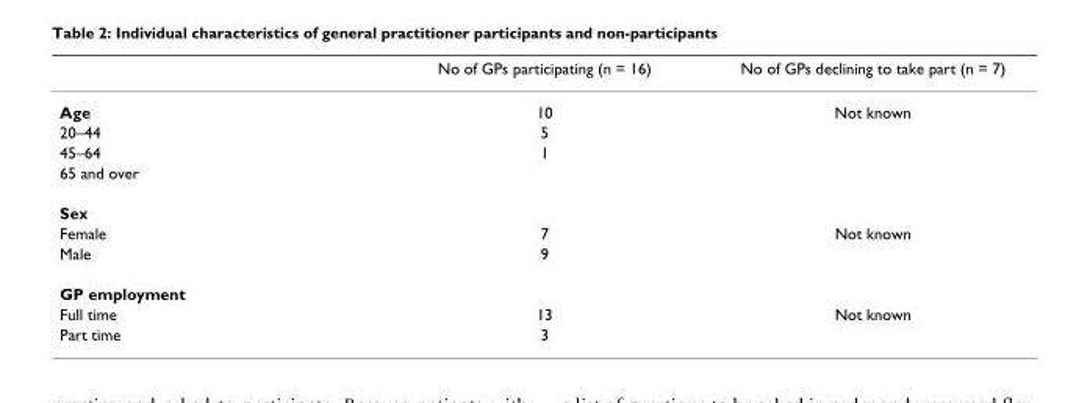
<table><thead><tr><td></td><td>No of GPs participating (n = 16)</td><td>No of GPs declining to take part (n = 7)</td></tr></thead><tbody><tr><td>Age</td><td>10</td><td>Not known</td></tr><tr><td>20–44</td><td>5</td><td></td></tr><tr><td>45–64</td><td>1</td><td></td></tr><tr><td colspan="3">65 and over</td></tr><tr><td colspan="3">Sex</td></tr><tr><td>Female</td><td>7</td><td>Not known</td></tr><tr><td>Male</td><td>9</td><td></td></tr><tr><td colspan="3">GP employment</td></tr><tr><td>Full time</td><td>13</td><td>Not known</td></tr><tr><td>Part time</td><td>3</td><td></td></tr></tbody></table>